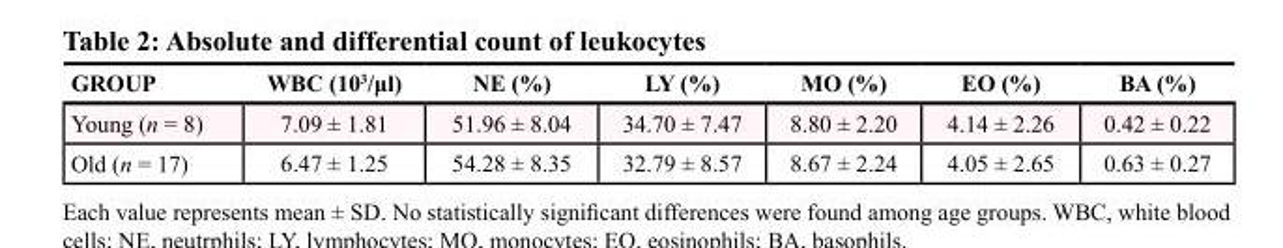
<table><thead><tr><td>GROUP</td><td>WBC (10<sup>3</sup>/μl)</td><td>NE (%)</td><td>LY (%)</td><td>MO (%)</td><td>EO (%)</td><td>BA (%)</td></tr></thead><tbody><tr><td>Young (n = 8)</td><td>7.09 ± 1.81</td><td>51.96 ± 8.04</td><td>34.70 ± 7.47</td><td>8.80 ± 2.20</td><td>4.14 ± 2.26</td><td>0.42 ± 0.22</td></tr><tr><td>Old (n = 17)</td><td>6.47 ± 1.25</td><td>54.28 ± 8.35</td><td>32.79 ± 8.57</td><td>8.67 ± 2.24</td><td>4.05 ± 2.65</td><td>0.63 ± 0.27</td></tr></tbody></table>